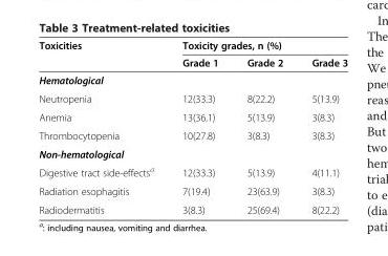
<table><thead><tr><td rowspan="2">Toxicities</td><td colspan="3">Toxicity grades, n (%)</td></tr><tr><td>Grade 1</td><td>Grade 2</td><td>Grade 3</td></tr></thead><tbody><tr><td colspan="4">Hematological</td></tr><tr><td>Neutropenia</td><td>12(33.3)</td><td>8(22.2)</td><td>5(13.9)</td></tr><tr><td>Anemia</td><td>13(36.1)</td><td>5(13.9)</td><td>3(8.3)</td></tr><tr><td>Thrombocytopenia</td><td>10(27.8)</td><td>3(8.3)</td><td>3(8.3)</td></tr><tr><td colspan="4">Non-hematological</td></tr><tr><td>Digestive tract side-effects<sup>a</sup></td><td>12(33.3)</td><td>5(13.9)</td><td>4(11.1)</td></tr><tr><td>Radiation esophagitis</td><td>7(19.4)</td><td>23(63.9)</td><td>3(8.3)</td></tr><tr><td>Radiodermatitis</td><td>3(8.3)</td><td>25(69.4)</td><td>8(22.2)</td></tr></tbody></table>